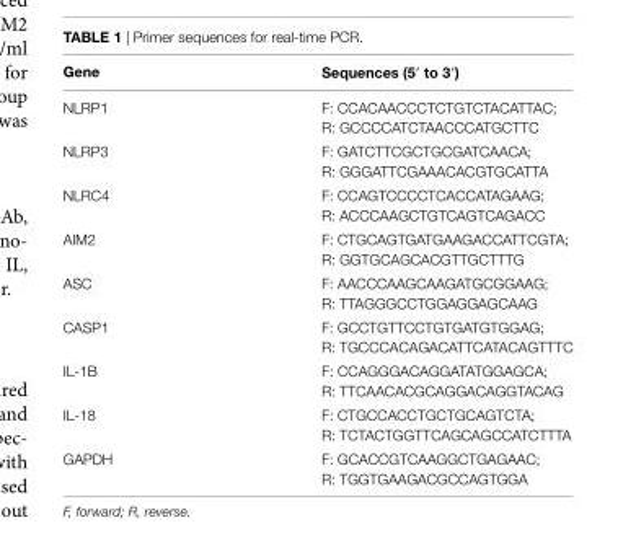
<table><thead><tr><td>gene</td><td>sequences (5′ to 3′)</td></tr></thead><tbody><tr><td>NLRP1</td><td>F: CCACAACCCTCTGTCTACATTAC; R: GCCCCATCTAACCCATGCTTC</td></tr><tr><td>NLRP3</td><td>F: GATCTTCGCTGCGATCAACA; R: GGGATTCGAAACACGTGCATTA</td></tr><tr><td>NLRC4</td><td>F: CCAGTCCCCTCACCATAGAAG; R: ACCCAAGCTGTCAGTCAGACC</td></tr><tr><td>AIM2</td><td>F: CTGCAGTGATGAAGACCATTCGTA; R: GGTGCAGCACGTTGCTTTG</td></tr><tr><td>ASC</td><td>F: AACCCAAGCAAGATGCGGAAG; R: TTAGGGCCTGGAGGAGCAAG</td></tr><tr><td>CASP1</td><td>F: GCCTGTTCCTGTGATGTGGAG; R: TGCCCACAGACATTCATACAGTTTC</td></tr><tr><td>IL-1B</td><td>F: CCAGGGACAGGATATGGAGCA; R: TTCAACACGCAGGACAGGTACAG</td></tr><tr><td>IL-18</td><td>F: CTGCCACCTGCTGCAGTCTA; R: TCTACTGGTTCAGCAGCCATCTTTA</td></tr><tr><td>GAPDH</td><td>F: GCACCGTCAAGGCTGAGAAC; R: TGGTGAAGACGCCAGTGGA</td></tr></tbody></table>